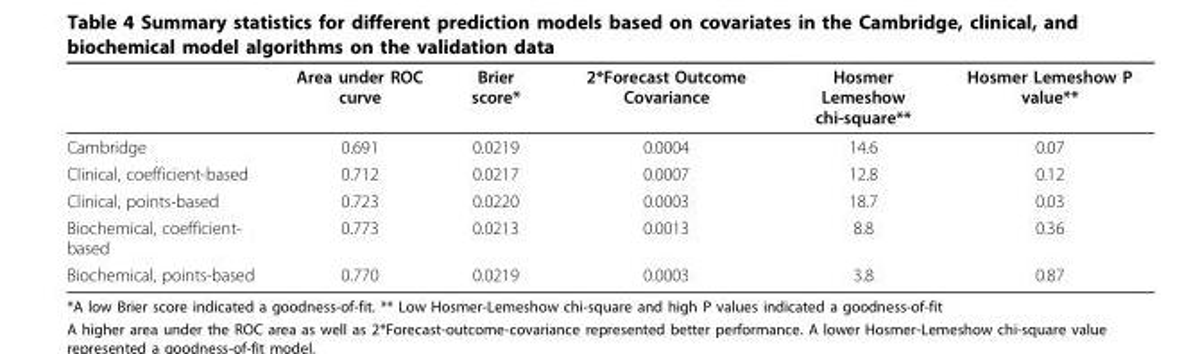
<table><thead><tr><td></td><td>Area under ROC curve</td><td>Brier score*</td><td>2*Forecast Outcome Covariance</td><td>Hosmer Lemeshow chi-square**</td><td>Hosmer Lemeshow P value**</td></tr></thead><tbody><tr><td>Cambridge</td><td>0.691</td><td>0.0219</td><td>0.0004</td><td>14.6</td><td>0.07</td></tr><tr><td>Clinical, coefficient-based</td><td>0.712</td><td>0.0217</td><td>0.0007</td><td>12.8</td><td>0.12</td></tr><tr><td>Clinical, points-based</td><td>0.723</td><td>0.0220</td><td>0.0003</td><td>18.7</td><td>0.03</td></tr><tr><td>Biochemical, coefficient- based</td><td>0.773</td><td>0.0213</td><td>0.0013</td><td>8.8</td><td>0.36</td></tr><tr><td>Biochemical, points-based</td><td>0.770</td><td>0.0219</td><td>0.0003</td><td>3.8</td><td>0.87</td></tr></tbody></table>